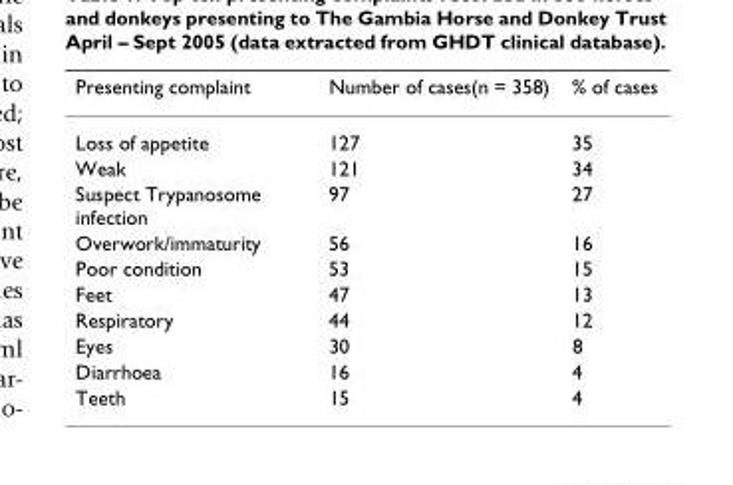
<table><thead><tr><td>Presenting complaint</td><td>Number of cases(n = 358)</td><td>% of cases</td></tr></thead><tbody><tr><td>Loss of appetite</td><td>127</td><td>35</td></tr><tr><td>Weak</td><td>121</td><td>34</td></tr><tr><td>Suspect Trypanosome infection</td><td>97</td><td>27</td></tr><tr><td>Overwork/immaturity</td><td>56</td><td>16</td></tr><tr><td>Poor condition</td><td>53</td><td>15</td></tr><tr><td>Feet</td><td>47</td><td>13</td></tr><tr><td>Respiratory</td><td>44</td><td>12</td></tr><tr><td>Eyes</td><td>30</td><td>8</td></tr><tr><td>Diarrhoea</td><td>16</td><td>4</td></tr><tr><td>Teeth</td><td>15</td><td>4</td></tr></tbody></table>